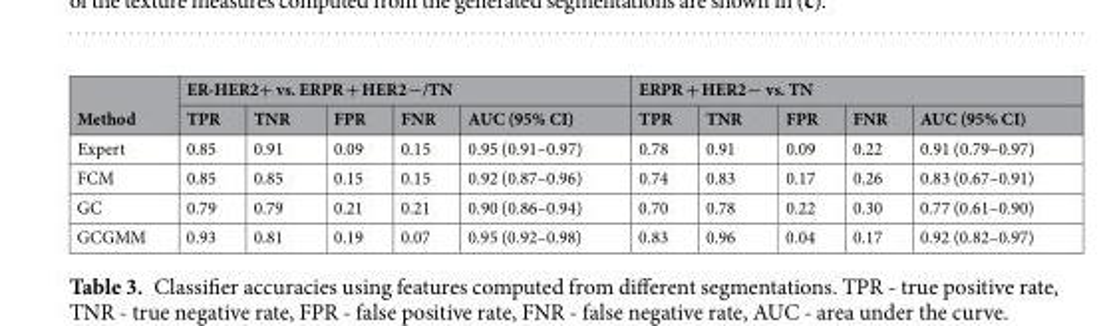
<table><thead><tr><td rowspan="2">Method</td><td colspan="5">ER-HER2+ vs. ERPR + HER2−/TN</td><td colspan="5">ERPR + HER2− vs. TN</td></tr><tr><td>TPR</td><td>TNR</td><td>FPR</td><td>FNR</td><td>AUC (95% CI)</td><td>TPR</td><td>TNR</td><td>FPR</td><td>FNR</td><td>AUC (95% CI)</td></tr></thead><tbody><tr><td>Expert</td><td>0.85</td><td>0.91</td><td>0.09</td><td>0.15</td><td>0.95 (0.91–0.97)</td><td>0.78</td><td>0.91</td><td>0.09</td><td>0.22</td><td>0.91 (0.79–0.97)</td></tr><tr><td>FCM</td><td>0.85</td><td>0.85</td><td>0.15</td><td>0.15</td><td>0.92 (0.87–0.96)</td><td>0.74</td><td>0.83</td><td>0.17</td><td>0.26</td><td>0.83 (0.67–0.91)</td></tr><tr><td>GC</td><td>0.79</td><td>0.79</td><td>0.21</td><td>0.21</td><td>0.90 (0.86–0.94)</td><td>0.70</td><td>0.78</td><td>0.22</td><td>0.30</td><td>0.77 (0.61–0.90)</td></tr><tr><td>GCGMM</td><td>0.93</td><td>0.81</td><td>0.19</td><td>0.07</td><td>0.95 (0.92–0.98)</td><td>0.83</td><td>0.96</td><td>0.04</td><td>0.17</td><td>0.92 (0.82–0.97)</td></tr></tbody></table>